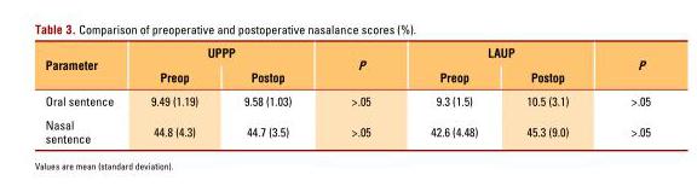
<table><thead><tr><td rowspan="2">Parameter</td><td colspan="2">UPPP</td><td rowspan="2">P</td><td colspan="2">LAUP</td><td rowspan="2">P</td></tr><tr><td>Preop</td><td>Postop</td><td>Preop</td><td>Postop</td></tr></thead><tbody><tr><td>Oral sentence</td><td>9.49 (1.19)</td><td>9.58 (1.03)</td><td>&gt;.05</td><td>9.3 (1.5)</td><td>10.5 (3.1)</td><td>&gt;.05</td></tr><tr><td>Nasal sentence</td><td>44.8 (4.3)</td><td>44.7 (3.5)</td><td>&gt;.05</td><td>42.6 (4.48)</td><td>45.3 (9.0)</td><td>&gt;.05</td></tr></tbody></table>